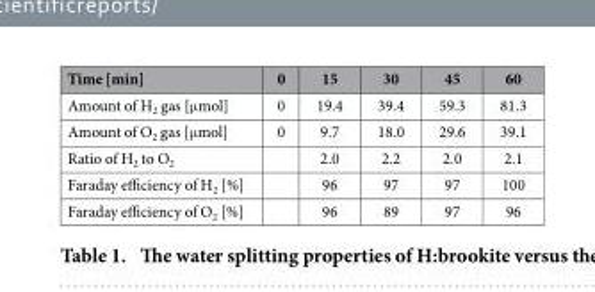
<table><thead><tr><td>Time [min]</td><td>0</td><td>15</td><td>30</td><td>45</td><td>60</td></tr></thead><tbody><tr><td>Amount of H<sub>2</sub> gas [μ mol]</td><td>0</td><td>19.4</td><td>39.4</td><td>59.3</td><td>81.3</td></tr><tr><td>Amount of O<sub>2</sub> gas [μ mol]</td><td>0</td><td>9.7</td><td>18.0</td><td>29.6</td><td>39.1</td></tr><tr><td>Ratio of H<sub>2</sub> to O<sub>2</sub></td><td></td><td>2.0</td><td>2.2</td><td>2.0</td><td>2.1</td></tr><tr><td>Faraday efficiency of H<sub>2</sub> [%]</td><td></td><td>96</td><td>97</td><td>97</td><td>100</td></tr><tr><td>Faraday efficiency of O<sub>2</sub> [%]</td><td></td><td>96</td><td>89</td><td>97</td><td>96</td></tr></tbody></table>